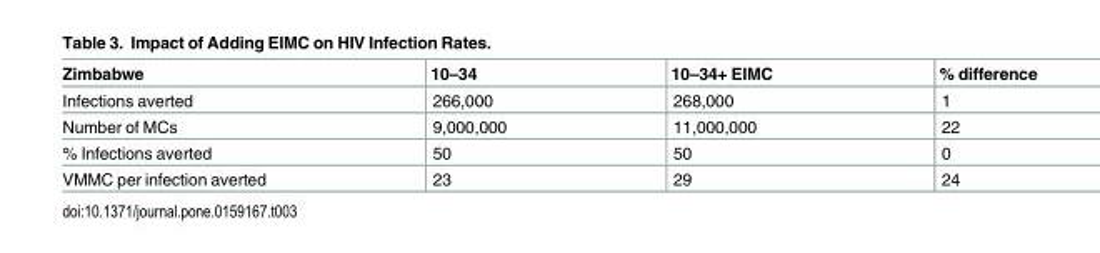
<table><thead><tr><td>Zimbabwe</td><td>10–34</td><td>10–34+ EIMC</td><td>% difference</td></tr></thead><tbody><tr><td>Infections averted</td><td>266,000</td><td>268,000</td><td>1</td></tr><tr><td>Number of MCs</td><td>9,000,000</td><td>11,000,000</td><td>22</td></tr><tr><td>% Infections averted</td><td>50</td><td>50</td><td>0</td></tr><tr><td>VMMC per infection averted</td><td>23</td><td>29</td><td>24</td></tr></tbody></table>